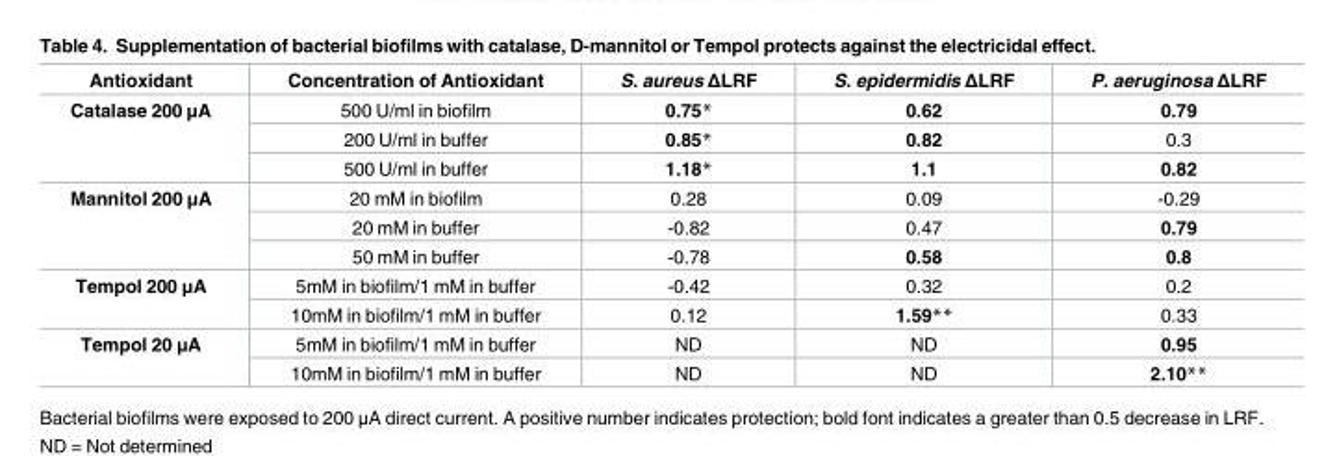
<table><thead><tr><td>Antioxidant</td><td>Concentration of Antioxidant</td><td>S. aureus ΔLRF</td><td>S. epidermidis ΔLRF</td><td>P. aeruginosa ΔLRF</td></tr></thead><tbody><tr><td rowspan="3">Catalase 200 μA</td><td>500 U/ml in biofilm</td><td>0.75*</td><td>0.62</td><td>0.79</td></tr><tr><td>200 U/ml in buffer</td><td>0.85*</td><td>0.82</td><td>0.3</td></tr><tr><td>500 U/ml in buffer</td><td>1.18*</td><td>1.1</td><td>0.82</td></tr><tr><td rowspan="3">Mannitol 200 μA</td><td>20 mM in biofilm</td><td>0.28</td><td>0.09</td><td>-0.29</td></tr><tr><td>20 mM in buffer</td><td>-0.82</td><td>0.47</td><td>0.79</td></tr><tr><td>50 mM in buffer</td><td>-0.78</td><td>0.58</td><td>0.8</td></tr><tr><td rowspan="2">Tempol 200 μA</td><td>5mM in biofilm/1 mM in buffer</td><td>-0.42</td><td>0.32</td><td>0.2</td></tr><tr><td>10mM in biofilm/1 mM in buffer</td><td>0.12</td><td>1.59**</td><td>0.33</td></tr><tr><td rowspan="2">Tempol 20 μA</td><td>5mM in biofilm/1 mM in buffer</td><td>ND</td><td>ND</td><td>0.95</td></tr><tr><td>10mM in biofilm/1 mM in buffer</td><td>ND</td><td>ND</td><td>2.10**</td></tr></tbody></table>